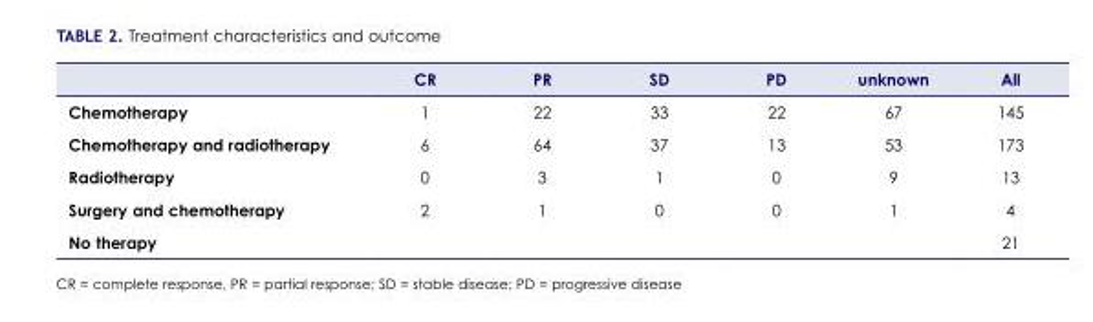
<table><thead><tr><td></td><td>CR</td><td>PR</td><td>SD</td><td>PD</td><td>unknown</td><td>All</td></tr></thead><tbody><tr><td>Chemotherapy</td><td>1</td><td>22</td><td>33</td><td>22</td><td>67</td><td>145</td></tr><tr><td>Chemotherapy and radiotherapy</td><td>6</td><td>64</td><td>37</td><td>13</td><td>53</td><td>173</td></tr><tr><td>Radiotherapy</td><td>0</td><td>3</td><td>1</td><td>0</td><td>9</td><td>13</td></tr><tr><td>Surgery and chemotherapy</td><td>2</td><td>1</td><td>0</td><td>0</td><td>1</td><td>4</td></tr><tr><td>No therapy</td><td></td><td></td><td></td><td></td><td></td><td>21</td></tr></tbody></table>